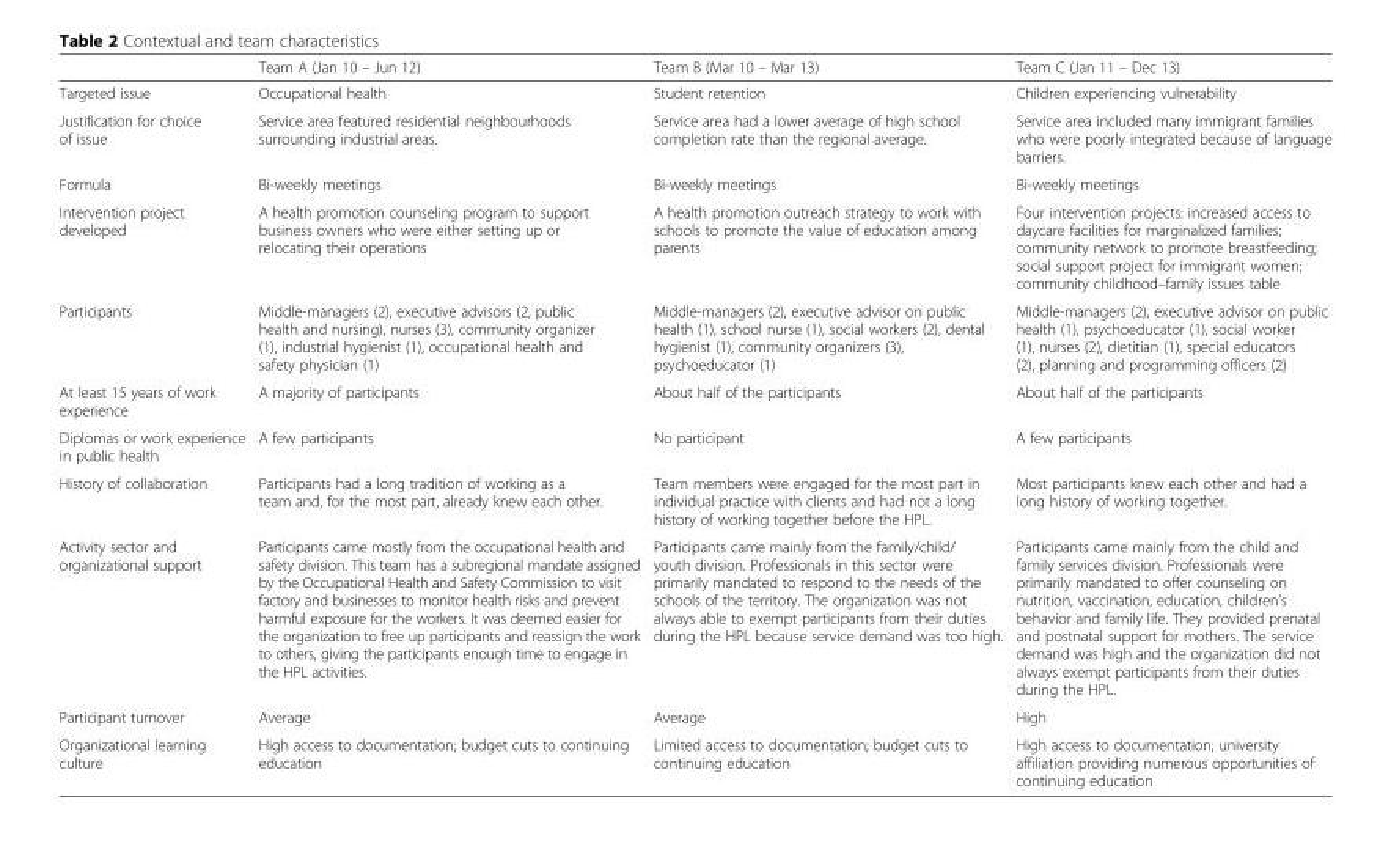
<table><thead><tr><td></td><td>Team A (Jan 10 – Jun 12)</td><td>Team B (Mar 10 – Mar 13)</td><td>Team C (Jan 11 – Dec 13)</td></tr></thead><tbody><tr><td>Targeted issue</td><td>Occupational health</td><td>Student retention</td><td>Children experiencing vulnerability</td></tr><tr><td>Justification for choice of issue</td><td>Service area featured residential neighbourhoods surrounding industrial areas.</td><td>Service area had a lower average of high school completion rate than the regional average.</td><td>Service area included many immigrant families who were poorly integrated because of language barriers.</td></tr><tr><td>Formula</td><td>Bi-weekly meetings</td><td>Bi-weekly meetings</td><td>Bi-weekly meetings</td></tr><tr><td>Intervention project developed</td><td>A health promotion counseling program to support business owners who were either setting up or relocating their operations</td><td>A health promotion outreach strategy to work with schools to promote the value of education among parents</td><td>Four intervention projects: increased access to daycare facilities for marginalized families; community network to promote breastfeeding; social support project for immigrant women; community childhood–family issues table</td></tr><tr><td>Participants</td><td>Middle-managers (2), executive advisors (2, public health and nursing), nurses (3), community organizer (1), industrial hygienist (1), occupational health and safety physician (1)</td><td>Middle-managers (2), executive advisor on public health (1), school nurse (1), social workers (2), dental hygienist (1), community organizers (3), psychoeducator (1)</td><td>Middle-managers (2), executive advisor on public health (1), psychoeducator (1), social worker (1), nurses (2), dietitian (1), special educators (2), planning and programming officers (2)</td></tr><tr><td>At least 15 years of work experience</td><td>A majority of participants</td><td>About half of the participants</td><td>About half of the participants</td></tr><tr><td>Diplomas or work experience in public health</td><td>A few participants</td><td>No participant</td><td>A few participants</td></tr><tr><td>History of collaboration</td><td>Participants had a long tradition of working as a team and, for the most part, already knew each other.</td><td>Team members were engaged for the most part in individual practice with clients and had not a long history of working together before the HPL.</td><td>Most participants knew each other and had a long history of working together.</td></tr><tr><td>Activity sector and organizational support</td><td>Participants came mostly from the occupational health and safety division. This team has a subregional mandate assigned by the Occupational Health and Safety Commission to visit factory and businesses to monitor health risks and prevent harmful exposure for the workers. It was deemed easier for the organization to free up participants and reassign the work to others, giving the participants enough time to engage in the HPL activities.</td><td>Participants came mainly from the family/child/ youth division. Professionals in this sector were primarily mandated to respond to the needs of the schools of the territory. The organization was not always able to exempt participants from their duties during the HPL because service demand was too high.</td><td>Participants came mainly from the child and family services division. Professionals were primarily mandated to offer counseling on nutrition, vaccination, education, children’s behavior and family life. They provided prenatal and postnatal support for mothers. The service demand was high and the organization did not always exempt participants from their duties during the HPL.</td></tr><tr><td>Participant turnover</td><td>Average</td><td>Average</td><td>High</td></tr><tr><td>Organizational learning culture</td><td>High access to documentation; budget cuts to continuing education</td><td>Limited access to documentation; budget cuts to continuing education</td><td>High access to documentation; university affiliation providing numerous opportunities of continuing education</td></tr></tbody></table>